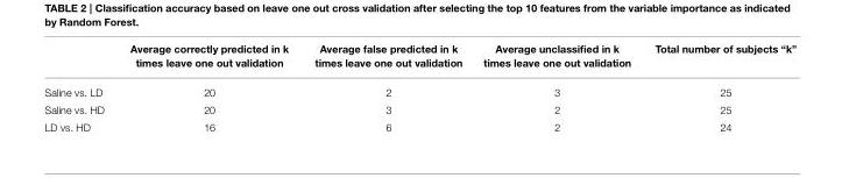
<table><thead><tr><td></td><td>Average correctly predicted in k times leave one out validation</td><td>Average false predicted in k times leave one out validation</td><td>Average unclassified in k times leave one out validation</td><td>Total number of subjects “k”</td></tr></thead><tbody><tr><td>Saline vs. LD</td><td>20</td><td>2</td><td>3</td><td>25</td></tr><tr><td>Saline vs. HD</td><td>20</td><td>3</td><td>2</td><td>25</td></tr><tr><td>LD vs. HD</td><td>16</td><td>6</td><td>2</td><td>24</td></tr></tbody></table>